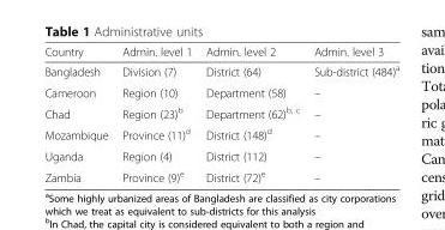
<table><thead><tr><td>Country</td><td>Admin. level 1</td><td>Admin. level 2</td><td>Admin. level 3</td></tr></thead><tbody><tr><td>Bangladesh</td><td>Division (7)</td><td>District (64)</td><td>Sub-district (484)<sup>a</sup></td></tr><tr><td>Cameroon</td><td>Region (10)</td><td>Department (58)</td><td>–</td></tr><tr><td>Chad</td><td>Region (23)<sup>b</sup></td><td>Department (62)<sup>b, c</sup></td><td>–</td></tr><tr><td>Mozambique</td><td>Province (11)<sup>d</sup></td><td>District (148)<sup>d</sup></td><td>–</td></tr><tr><td>Uganda</td><td>Region (4)</td><td>District (112)</td><td>–</td></tr><tr><td>Zambia</td><td>Province (9)<sup>e</sup></td><td>District (72)<sup>e</sup></td><td>–</td></tr></tbody></table>